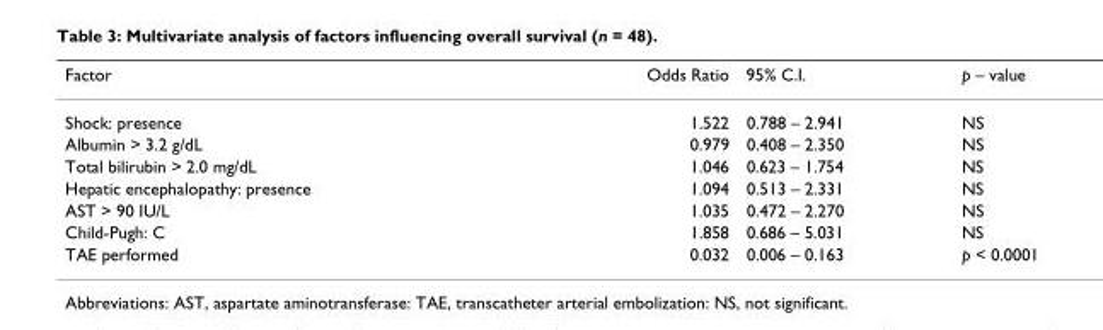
<table><thead><tr><td>Factor</td><td>Odds Ratio</td><td>95% C.I.</td><td>p – value</td></tr></thead><tbody><tr><td>Shock: presence</td><td>1.522</td><td>0.788 – 2.941</td><td>NS</td></tr><tr><td>Albumin &gt; 3.2 g/dL</td><td>0.979</td><td>0.408 – 2.350</td><td>NS</td></tr><tr><td>Total bilirubin &gt; 2.0 mg/dL</td><td>1.046</td><td>0.623 – 1.754</td><td>NS</td></tr><tr><td>Hepatic encephalopathy: presence</td><td>1.094</td><td>0.513 – 2.331</td><td>NS</td></tr><tr><td>AST &gt; 90 IU/L</td><td>1.035</td><td>0.472 – 2.270</td><td>NS</td></tr><tr><td>Child-Pugh: C</td><td>1.858</td><td>0.686 – 5.031</td><td>NS</td></tr><tr><td>TAE performed</td><td>0.032</td><td>0.006 – 0.163</td><td>p &lt; 0.0001</td></tr></tbody></table>